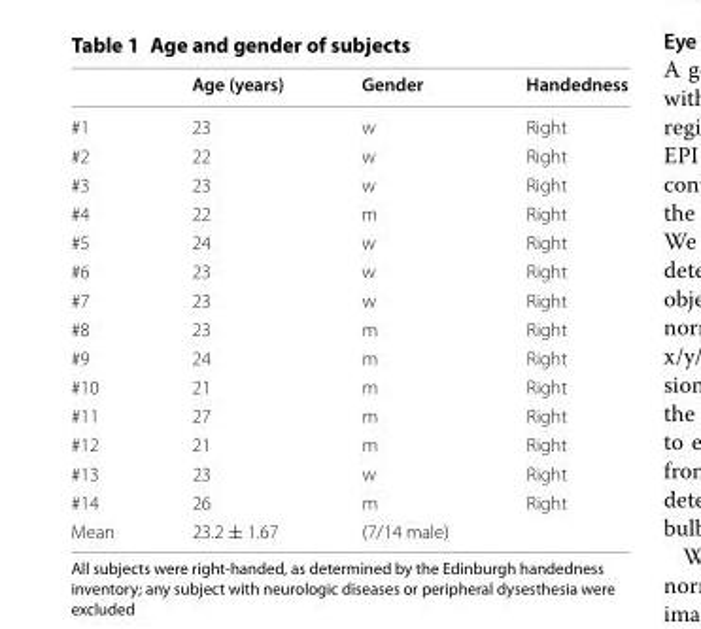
<table><thead><tr><td></td><td>Age (years)</td><td>Gender</td><td>Handedness</td></tr></thead><tbody><tr><td>#1</td><td>23</td><td>w</td><td>Right</td></tr><tr><td>#2</td><td>22</td><td>w</td><td>Right</td></tr><tr><td>#3</td><td>23</td><td>w</td><td>Right</td></tr><tr><td>#4</td><td>22</td><td>m</td><td>Right</td></tr><tr><td>#5</td><td>24</td><td>w</td><td>Right</td></tr><tr><td>#6</td><td>23</td><td>w</td><td>Right</td></tr><tr><td>#7</td><td>23</td><td>w</td><td>Right</td></tr><tr><td>#8</td><td>23</td><td>m</td><td>Right</td></tr><tr><td>#9</td><td>24</td><td>m</td><td>Right</td></tr><tr><td>#10</td><td>21</td><td>m</td><td>Right</td></tr><tr><td>#11</td><td>27</td><td>m</td><td>Right</td></tr><tr><td>#12</td><td>21</td><td>m</td><td>Right</td></tr><tr><td>#13</td><td>23</td><td>w</td><td>Right</td></tr><tr><td>#14</td><td>26</td><td>m</td><td>Right</td></tr><tr><td>Mean</td><td>23.2 ± 1.67</td><td>(7/14 male)</td><td></td></tr></tbody></table>